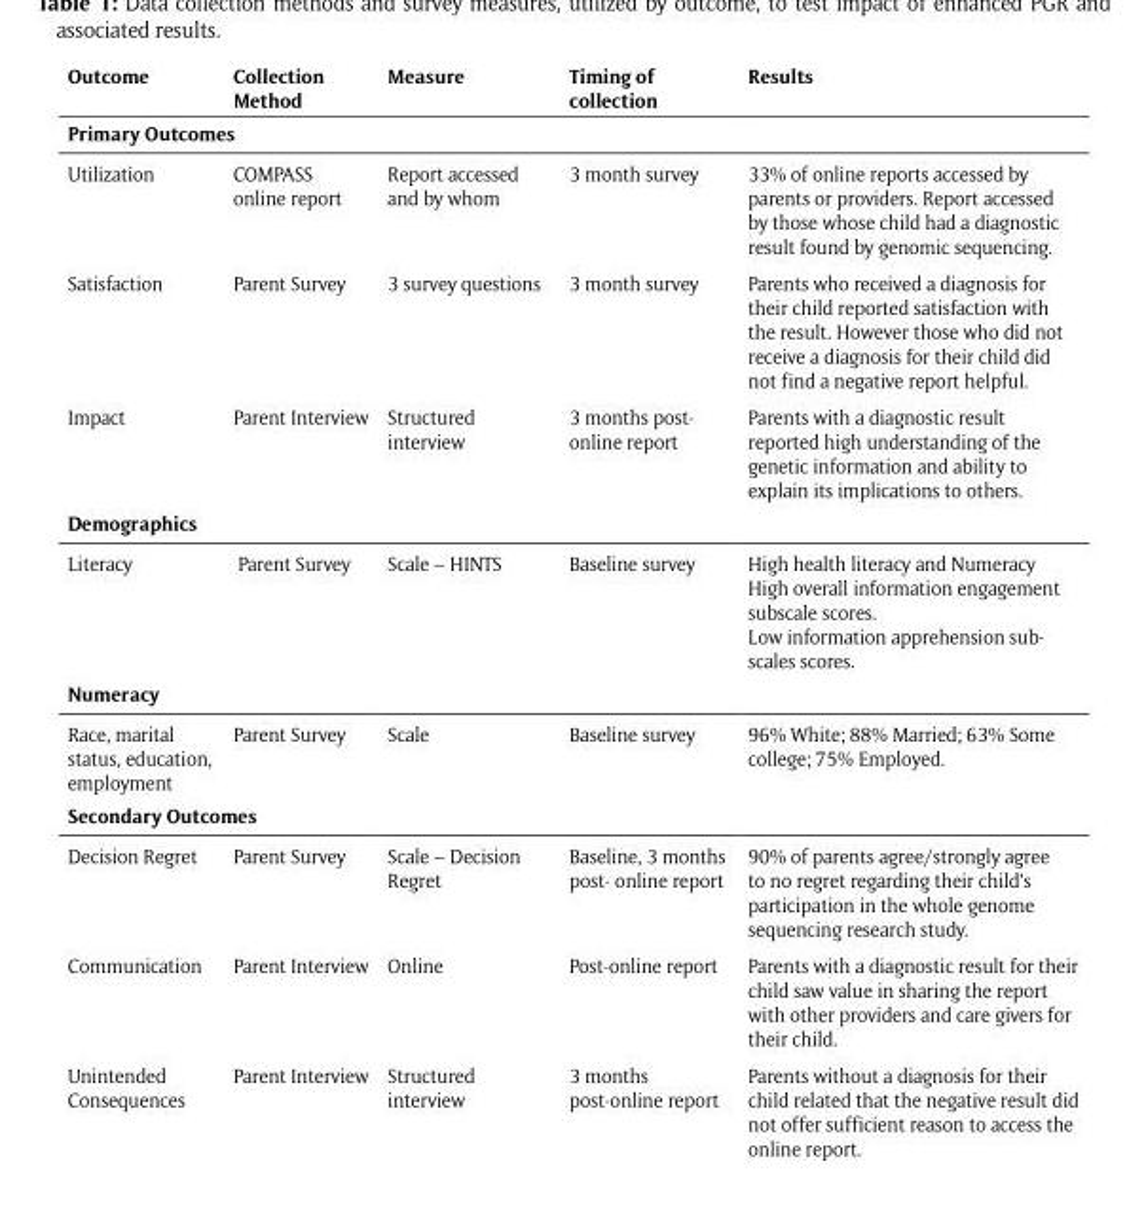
<table><thead><tr><td>Outcome</td><td>Collection Method</td><td>Measure</td><td>Timing of collection</td><td>Results</td></tr></thead><tbody><tr><td colspan="5">Primary Outcomes</td></tr><tr><td>Utilization</td><td>COMPASS online report</td><td>Report accessed and by whom</td><td>3 month survey</td><td>33% of online reports accessed by parents or providers. Report accessed by those whose child had a diagnostic result found by genomic sequencing.</td></tr><tr><td>Satisfaction</td><td>Parent Survey</td><td>3 survey questions</td><td>3 month survey</td><td>Parents who received a diagnosis for their child reported satisfaction with the result. However those who did not receive a diagnosis for their child did not find a negative report helpful.</td></tr><tr><td>Impact</td><td>Parent Interview</td><td>Structured interview</td><td>3 months post- online report</td><td>Parents with a diagnostic result reported high understanding of the genetic information and ability to explain its implications to others.</td></tr><tr><td colspan="5">Demographics</td></tr><tr><td>Literacy</td><td>Parent Survey</td><td>Scale – HINTS</td><td>Baseline survey</td><td>High health literacy and Numeracy High overall information engagement subscale scores. Low information apprehension sub- scales scores.</td></tr><tr><td colspan="5">Numeracy</td></tr><tr><td>Race, marital status, education, employment</td><td>Parent Survey</td><td>Scale</td><td>Baseline survey</td><td>96% White; 88% Married; 63% Some college; 75% Employed.</td></tr><tr><td colspan="5">Secondary Outcomes</td></tr><tr><td>Decision Regret</td><td>Parent Survey</td><td>Scale – Decision Regret</td><td>Baseline, 3 months post- online report</td><td>90% of parents agree/strongly agree to no regret regarding their child’s participation in the whole genome sequencing research study.</td></tr><tr><td>Communication</td><td>Parent Interview</td><td>Online</td><td>Post-online report</td><td>Parents with a diagnostic result for their child saw value in sharing the report with other providers and care givers for their child.</td></tr><tr><td>Unintended Consequences</td><td>Parent Interview</td><td>Structured interview</td><td>3 months post-online report</td><td>Parents without a diagnosis for their child related that the negative result did not offer sufficient reason to access the online report.</td></tr></tbody></table>